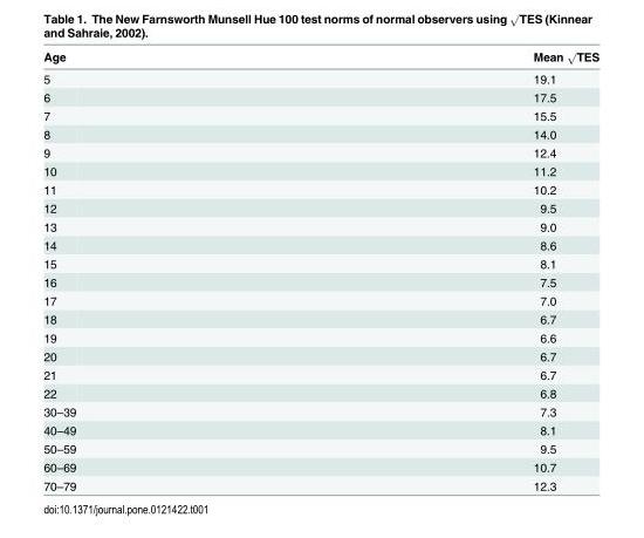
<table><thead><tr><td>Age</td><td>Mean √TES</td></tr></thead><tbody><tr><td>5</td><td>19.1</td></tr><tr><td>6</td><td>17.5</td></tr><tr><td>7</td><td>15.5</td></tr><tr><td>8</td><td>14.0</td></tr><tr><td>9</td><td>12.4</td></tr><tr><td>10</td><td>11.2</td></tr><tr><td>11</td><td>10.2</td></tr><tr><td>12</td><td>9.5</td></tr><tr><td>13</td><td>9.0</td></tr><tr><td>14</td><td>8.6</td></tr><tr><td>15</td><td>8.1</td></tr><tr><td>16</td><td>7.5</td></tr><tr><td>17</td><td>7.0</td></tr><tr><td>18</td><td>6.7</td></tr><tr><td>19</td><td>6.6</td></tr><tr><td>20</td><td>6.7</td></tr><tr><td>21</td><td>6.7</td></tr><tr><td>22</td><td>6.8</td></tr><tr><td>30–39</td><td>7.3</td></tr><tr><td>40–49</td><td>8.1</td></tr><tr><td>50–59</td><td>9.5</td></tr><tr><td>60–69</td><td>10.7</td></tr><tr><td>70–79</td><td>12.3</td></tr></tbody></table>